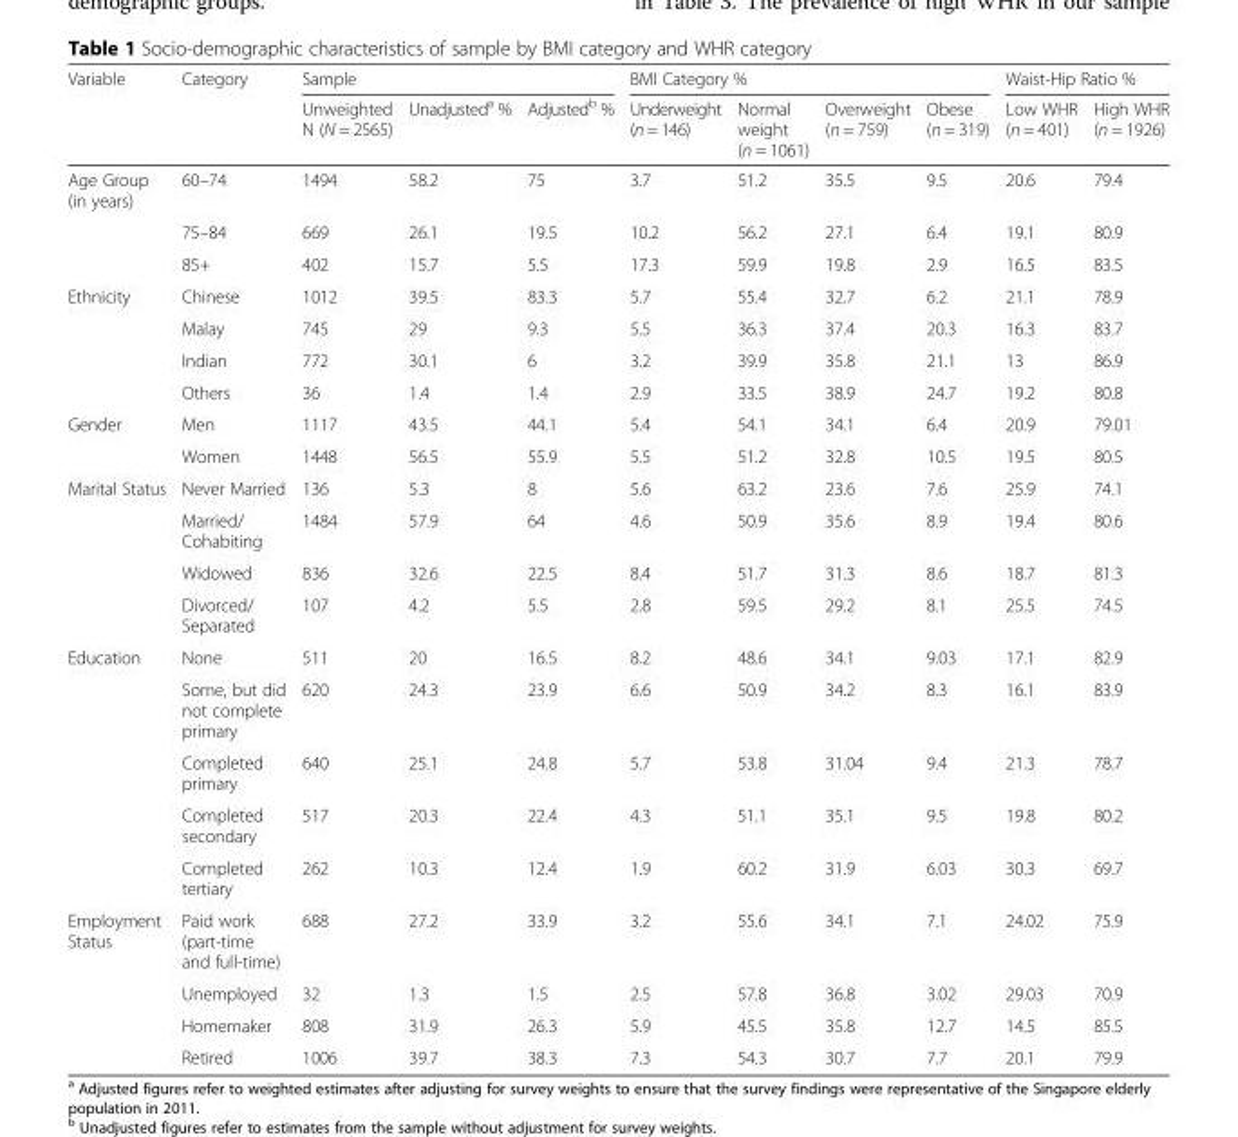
<table><thead><tr><td rowspan="2">Variable</td><td rowspan="2">Category</td><td colspan="3">Sample</td><td colspan="4">BMI Category %</td><td colspan="2">Waist-Hip Ratio %</td></tr><tr><td>Unweighted N (N = 2565)</td><td>Unadjusted<sup>a</sup> %</td><td>Adjusted<sup>b</sup> %</td><td>Underweight (n = 146)</td><td>Normal weight (n = 1061)</td><td>Overweight (n = 759)</td><td>Obese (n = 319)</td><td>Low WHR (n = 401)</td><td>High WHR (n = 1926)</td></tr></thead><tbody><tr><td rowspan="3">Age Group (in years)</td><td>60–74</td><td>1494</td><td>58.2</td><td>75</td><td>3.7</td><td>51.2</td><td>35.5</td><td>9.5</td><td>20.6</td><td>79.4</td></tr><tr><td>75–84</td><td>669</td><td>26.1</td><td>19.5</td><td>10.2</td><td>56.2</td><td>27.1</td><td>6.4</td><td>19.1</td><td>80.9</td></tr><tr><td>85+</td><td>402</td><td>15.7</td><td>5.5</td><td>17.3</td><td>59.9</td><td>19.8</td><td>2.9</td><td>16.5</td><td>83.5</td></tr><tr><td rowspan="4">Ethnicity</td><td>Chinese</td><td>1012</td><td>39.5</td><td>83.3</td><td>5.7</td><td>55.4</td><td>32.7</td><td>6.2</td><td>21.1</td><td>78.9</td></tr><tr><td>Malay</td><td>745</td><td>29</td><td>9.3</td><td>5.5</td><td>36.3</td><td>37.4</td><td>20.3</td><td>16.3</td><td>83.7</td></tr><tr><td>Indian</td><td>772</td><td>30.1</td><td>6</td><td>3.2</td><td>39.9</td><td>35.8</td><td>21.1</td><td>13</td><td>86.9</td></tr><tr><td>Others</td><td>36</td><td>1.4</td><td>1.4</td><td>2.9</td><td>33.5</td><td>38.9</td><td>24.7</td><td>19.2</td><td>80.8</td></tr><tr><td rowspan="2">Gender</td><td>Men</td><td>1117</td><td>43.5</td><td>44.1</td><td>5.4</td><td>54.1</td><td>34.1</td><td>6.4</td><td>20.9</td><td>79.01</td></tr><tr><td>Women</td><td>1448</td><td>56.5</td><td>55.9</td><td>5.5</td><td>51.2</td><td>32.8</td><td>10.5</td><td>19.5</td><td>80.5</td></tr><tr><td rowspan="4">Marital Status</td><td>Never Married</td><td>136</td><td>5.3</td><td>8</td><td>5.6</td><td>63.2</td><td>23.6</td><td>7.6</td><td>25.9</td><td>74.1</td></tr><tr><td>Married/ Cohabiting</td><td>1484</td><td>57.9</td><td>64</td><td>4.6</td><td>50.9</td><td>35.6</td><td>8.9</td><td>19.4</td><td>80.6</td></tr><tr><td>Widowed</td><td>836</td><td>32.6</td><td>22.5</td><td>8.4</td><td>51.7</td><td>31.3</td><td>8.6</td><td>18.7</td><td>81.3</td></tr><tr><td>Divorced/ Separated</td><td>107</td><td>4.2</td><td>5.5</td><td>2.8</td><td>59.5</td><td>29.2</td><td>8.1</td><td>25.5</td><td>74.5</td></tr><tr><td rowspan="5">Education</td><td>None</td><td>511</td><td>20</td><td>16.5</td><td>8.2</td><td>48.6</td><td>34.1</td><td>9.03</td><td>17.1</td><td>82.9</td></tr><tr><td>Some, but did not complete primary</td><td>620</td><td>24.3</td><td>23.9</td><td>6.6</td><td>50.9</td><td>34.2</td><td>8.3</td><td>16.1</td><td>83.9</td></tr><tr><td>Completed primary</td><td>640</td><td>25.1</td><td>24.8</td><td>5.7</td><td>53.8</td><td>31.04</td><td>9.4</td><td>21.3</td><td>78.7</td></tr><tr><td>Completed secondary</td><td>517</td><td>20.3</td><td>22.4</td><td>4.3</td><td>51.1</td><td>35.1</td><td>9.5</td><td>19.8</td><td>80.2</td></tr><tr><td>Completed tertiary</td><td>262</td><td>10.3</td><td>12.4</td><td>1.9</td><td>60.2</td><td>31.9</td><td>6.03</td><td>30.3</td><td>69.7</td></tr><tr><td rowspan="4">Employment Status</td><td>Paid work (part-time and full-time)</td><td>688</td><td>27.2</td><td>33.9</td><td>3.2</td><td>55.6</td><td>34.1</td><td>7.1</td><td>24.02</td><td>75.9</td></tr><tr><td>Unemployed</td><td>32</td><td>1.3</td><td>1.5</td><td>2.5</td><td>57.8</td><td>36.8</td><td>3.02</td><td>29.03</td><td>70.9</td></tr><tr><td>Homemaker</td><td>808</td><td>31.9</td><td>26.3</td><td>5.9</td><td>45.5</td><td>35.8</td><td>12.7</td><td>14.5</td><td>85.5</td></tr><tr><td>Retired</td><td>1006</td><td>39.7</td><td>38.3</td><td>7.3</td><td>54.3</td><td>30.7</td><td>7.7</td><td>20.1</td><td>79.9</td></tr></tbody></table>